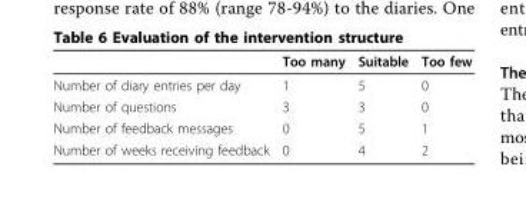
<table><thead><tr><td></td><td>Too many</td><td>Suitable</td><td>Too few</td></tr></thead><tbody><tr><td>Number of diary entries per day</td><td>1</td><td>5</td><td>0</td></tr><tr><td>Number of questions</td><td>3</td><td>3</td><td>0</td></tr><tr><td>Number of feedback messages</td><td>0</td><td>5</td><td>1</td></tr><tr><td>Number of weeks receiving feedback</td><td>0</td><td>4</td><td>2</td></tr></tbody></table>